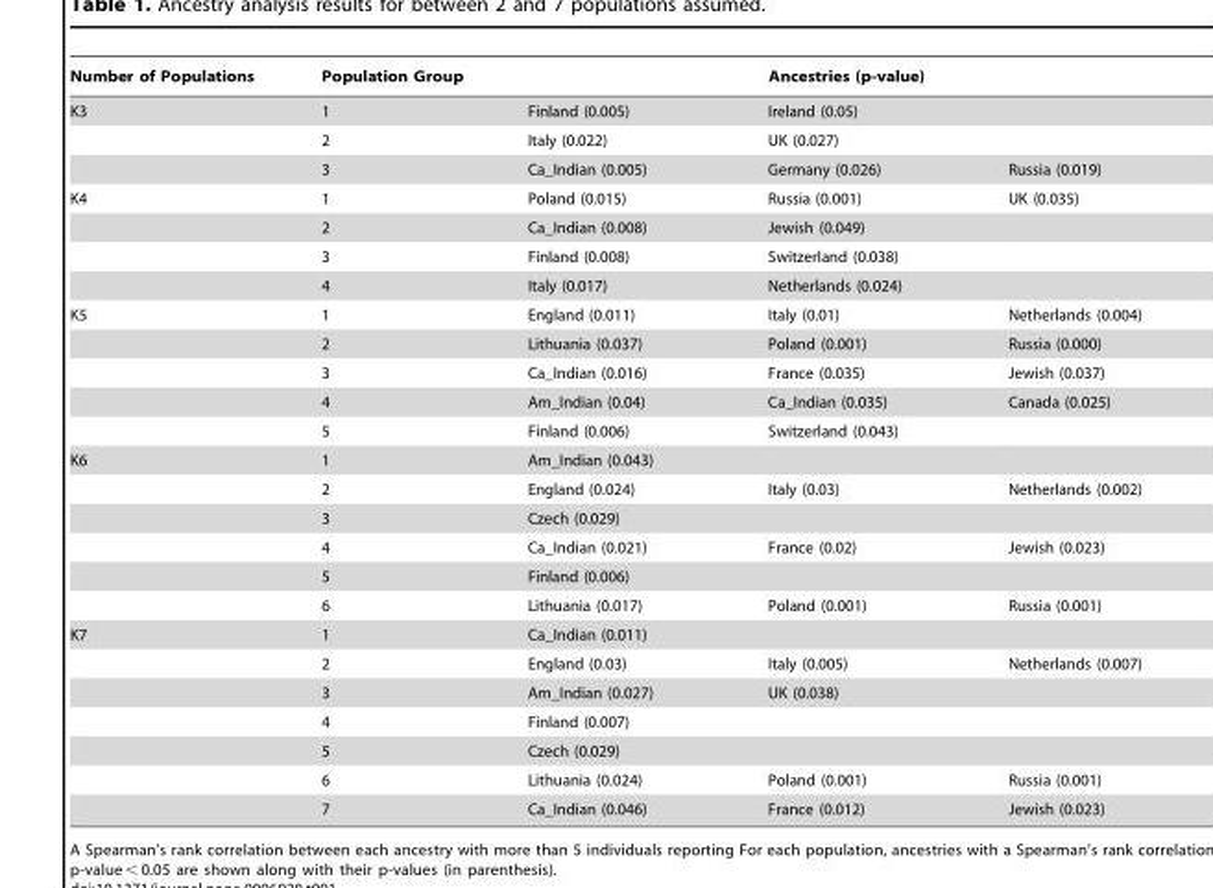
<table><thead><tr><td rowspan="2">Number of Populations K3</td><td rowspan="2">Population Group 1</td><td colspan="3">Ancestries (p-value)</td></tr><tr><td>Finland (0.005)</td><td>Ireland (0.05)</td><td></td></tr></thead><tbody><tr><td></td><td>2</td><td>Italy (0.022)</td><td>UK (0.027)</td><td></td></tr><tr><td></td><td>3</td><td>Ca_Indian (0.005)</td><td>Germany (0.026)</td><td>Russia (0.019)</td></tr><tr><td rowspan="4">K4</td><td>1</td><td>Poland (0.015)</td><td>Russia (0.001)</td><td>UK (0.035)</td></tr><tr><td>2</td><td>Ca_Indian (0.008)</td><td>Jewish (0.049)</td><td></td></tr><tr><td>3</td><td>Finland (0.008)</td><td>Switzerland (0.038)</td><td></td></tr><tr><td>4</td><td>Italy (0.017)</td><td>Netherlands (0.024)</td><td></td></tr><tr><td rowspan="5">K5</td><td>1</td><td>England (0.011)</td><td>Italy (0.01)</td><td>Netherlands (0.004)</td></tr><tr><td>2</td><td>Lithuania (0.037)</td><td>Poland (0.001)</td><td>Russia (0.000)</td></tr><tr><td>3</td><td>Ca_Indian (0.016)</td><td>France (0.035)</td><td>Jewish (0.037)</td></tr><tr><td>4</td><td>Am_Indian (0.04)</td><td>Ca_Indian (0.035)</td><td>Canada (0.025)</td></tr><tr><td>5</td><td>Finland (0.006)</td><td>Switzerland (0.043)</td><td></td></tr><tr><td rowspan="6">K6</td><td>1</td><td>Am_Indian (0.043)</td><td></td><td></td></tr><tr><td>2</td><td>England (0.024)</td><td>Italy (0.03)</td><td>Netherlands (0.002)</td></tr><tr><td>3</td><td>Czech (0.029)</td><td></td><td></td></tr><tr><td>4</td><td>Ca_Indian (0.021)</td><td>France (0.02)</td><td>Jewish (0.023)</td></tr><tr><td>5</td><td>Finland (0.006)</td><td></td><td></td></tr><tr><td>6</td><td>Lithuania (0.017)</td><td>Poland (0.001)</td><td>Russia (0.001)</td></tr><tr><td rowspan="7">K7</td><td>1</td><td>Ca_Indian (0.011)</td><td></td><td></td></tr><tr><td>2</td><td>England (0.03)</td><td>Italy (0.005)</td><td>Netherlands (0.007)</td></tr><tr><td>3</td><td>Am_Indian (0.027)</td><td>UK (0.038)</td><td></td></tr><tr><td>4</td><td>Finland (0.007)</td><td></td><td></td></tr><tr><td>5</td><td>Czech (0.029)</td><td></td><td></td></tr><tr><td>6</td><td>Lithuania (0.024)</td><td>Poland (0.001)</td><td>Russia (0.001)</td></tr><tr><td>7</td><td>Ca_Indian (0.046)</td><td>France (0.012)</td><td>Jewish (0.023)</td></tr></tbody></table>